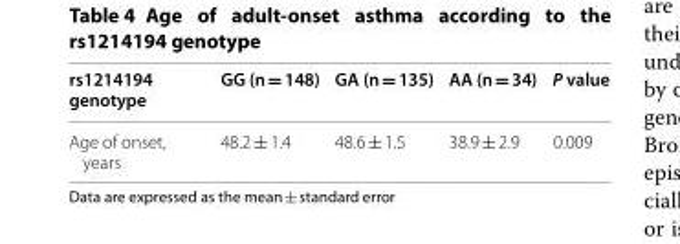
<table><thead><tr><td>rs1214194 genotype</td><td>GG (n = 148)</td><td>GA (n = 135)</td><td>AA (n = 34)</td><td>P value</td></tr></thead><tbody><tr><td>Age of onset, years</td><td>48.2 ± 1.4</td><td>48.6 ± 1.5</td><td>38.9 ± 2.9</td><td>0.009</td></tr></tbody></table>